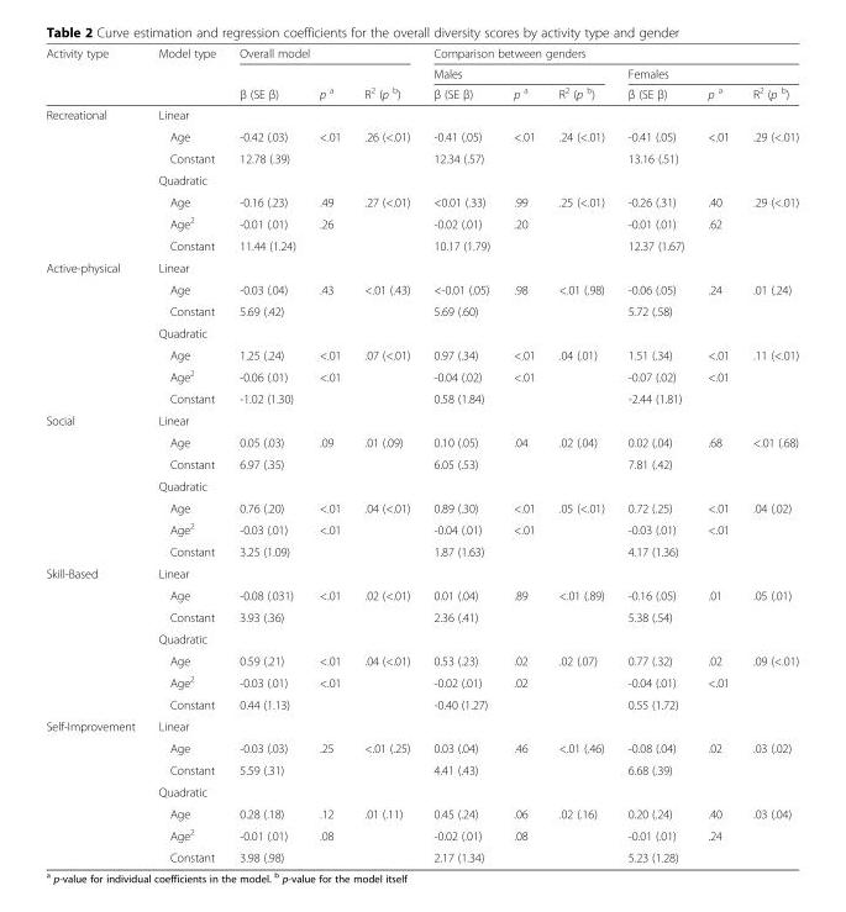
<table><thead><tr><td rowspan="3">Activity type</td><td rowspan="3">Model type</td><td colspan="3">Overall model</td><td colspan="6">Comparison between genders</td></tr><tr><td rowspan="2">β (SE β)</td><td rowspan="2">p <sup>a</sup></td><td rowspan="2">R<sup>2</sup> (p <sup>b</sup>)</td><td colspan="3">Males</td><td colspan="3">Females</td></tr><tr><td>β (SE β)</td><td>p <sup>a</sup></td><td>R<sup>2</sup> (p <sup>b</sup>)</td><td>β (SE β)</td><td>p <sup>a</sup></td><td>R<sup>2</sup> (p <sup>b</sup>)</td></tr></thead><tbody><tr><td rowspan="7">Recreational</td><td>Linear</td><td></td><td></td><td></td><td></td><td></td><td></td><td></td><td></td><td></td></tr><tr><td>Age</td><td>-0.42 (.03)</td><td>&lt;.01</td><td>.26 (&lt;.01)</td><td>-0.41 (.05)</td><td>&lt;.01</td><td>.24 (&lt;.01)</td><td>-0.41 (.05)</td><td>&lt;.01</td><td>.29 (&lt;.01)</td></tr><tr><td>Constant</td><td>12.78 (.39)</td><td></td><td></td><td>12.34 (.57)</td><td></td><td></td><td>13.16 (.51)</td><td></td><td></td></tr><tr><td>Quadratic</td><td></td><td></td><td></td><td></td><td></td><td></td><td></td><td></td><td></td></tr><tr><td>Age</td><td>-0.16 (.23)</td><td>.49</td><td>.27 (&lt;.01)</td><td>&lt;0.01 (.33)</td><td>.99</td><td>.25 (&lt;.01)</td><td>-0.26 (.31)</td><td>.40</td><td>.29 (&lt;.01)</td></tr><tr><td>Age<sup>2</sup></td><td>-0.01 (.01)</td><td>.26</td><td></td><td>-0.02 (.01)</td><td>.20</td><td></td><td>-0.01 (.01)</td><td>.62</td><td></td></tr><tr><td>Constant</td><td>11.44 (1.24)</td><td></td><td></td><td>10.17 (1.79)</td><td></td><td></td><td>12.37 (1.67)</td><td></td><td></td></tr><tr><td rowspan="7">Active-physical</td><td>Linear</td><td></td><td></td><td></td><td></td><td></td><td></td><td></td><td></td><td></td></tr><tr><td>Age</td><td>-0.03 (.04)</td><td>.43</td><td>&lt;.01 (.43)</td><td>&lt;-0.01 (.05)</td><td>.98</td><td>&lt;.01 (.98)</td><td>-0.06 (.05)</td><td>.24</td><td>.01 (.24)</td></tr><tr><td>Constant</td><td>5.69 (.42)</td><td></td><td></td><td>5.69 (.60)</td><td></td><td></td><td>5.72 (.58)</td><td></td><td></td></tr><tr><td>Quadratic</td><td></td><td></td><td></td><td></td><td></td><td></td><td></td><td></td><td></td></tr><tr><td>Age</td><td>1.25 (.24)</td><td>&lt;.01</td><td>.07 (&lt;.01)</td><td>0.97 (.34)</td><td>&lt;.01</td><td>.04 (.01)</td><td>1.51 (.34)</td><td>&lt;.01</td><td>.11 (&lt;.01)</td></tr><tr><td>Age<sup>2</sup></td><td>-0.06 (.01)</td><td>&lt;.01</td><td></td><td>-0.04 (.02)</td><td>&lt;.01</td><td></td><td>-0.07 (.02)</td><td>&lt;.01</td><td></td></tr><tr><td>Constant</td><td>-1.02 (1.30)</td><td></td><td></td><td>0.58 (1.84)</td><td></td><td></td><td>-2.44 (1.81)</td><td></td><td></td></tr><tr><td rowspan="7">Social</td><td>Linear</td><td></td><td></td><td></td><td></td><td></td><td></td><td></td><td></td><td></td></tr><tr><td>Age</td><td>0.05 (.03)</td><td>.09</td><td>.01 (.09)</td><td>0.10 (.05)</td><td>.04</td><td>.02 (.04)</td><td>0.02 (.04)</td><td>.68</td><td>&lt;.01 (.68)</td></tr><tr><td>Constant</td><td>6.97 (.35)</td><td></td><td></td><td>6.05 (.53)</td><td></td><td></td><td>7.81 (.42)</td><td></td><td></td></tr><tr><td>Quadratic</td><td></td><td></td><td></td><td></td><td></td><td></td><td></td><td></td><td></td></tr><tr><td>Age</td><td>0.76 (.20)</td><td>&lt;.01</td><td>.04 (&lt;.01)</td><td>0.89 (.30)</td><td>&lt;.01</td><td>.05 (&lt;.01)</td><td>0.72 (.25)</td><td>&lt;.01</td><td>.04 (.02)</td></tr><tr><td>Age<sup>2</sup></td><td>-0.03 (.01)</td><td>&lt;.01</td><td></td><td>-0.04 (.01)</td><td>&lt;.01</td><td></td><td>-0.03 (.01)</td><td>&lt;.01</td><td></td></tr><tr><td>Constant</td><td>3.25 (1.09)</td><td></td><td></td><td>1.87 (1.63)</td><td></td><td></td><td>4.17 (1.36)</td><td></td><td></td></tr><tr><td rowspan="7">Skill-Based</td><td>Linear</td><td></td><td></td><td></td><td></td><td></td><td></td><td></td><td></td><td></td></tr><tr><td>Age</td><td>-0.08 (.031)</td><td>&lt;.01</td><td>.02 (&lt;.01)</td><td>0.01 (.04)</td><td>.89</td><td>&lt;.01 (.89)</td><td>-0.16 (.05)</td><td>.01</td><td>.05 (.01)</td></tr><tr><td>Constant</td><td>3.93 (.36)</td><td></td><td></td><td>2.36 (.41)</td><td></td><td></td><td>5.38 (.54)</td><td></td><td></td></tr><tr><td>Quadratic</td><td></td><td></td><td></td><td></td><td></td><td></td><td></td><td></td><td></td></tr><tr><td>Age</td><td>0.59 (.21)</td><td>&lt;.01</td><td>.04 (&lt;.01)</td><td>0.53 (.23)</td><td>.02</td><td>.02 (.07)</td><td>0.77 (.32)</td><td>.02</td><td>.09 (&lt;.01)</td></tr><tr><td>Age<sup>2</sup></td><td>-0.03 (.01)</td><td>&lt;.01</td><td></td><td>-0.02 (.01)</td><td>.02</td><td></td><td>-0.04 (.01)</td><td>&lt;.01</td><td></td></tr><tr><td>Constant</td><td>0.44 (1.13)</td><td></td><td></td><td>-0.40 (1.27)</td><td></td><td></td><td>0.55 (1.72)</td><td></td><td></td></tr><tr><td rowspan="7">Self-Improvement</td><td>Linear</td><td></td><td></td><td></td><td></td><td></td><td></td><td></td><td></td><td></td></tr><tr><td>Age</td><td>-0.03 (.03)</td><td>.25</td><td>&lt;.01 (.25)</td><td>0.03 (.04)</td><td>.46</td><td>&lt;.01 (.46)</td><td>-0.08 (.04)</td><td>.02</td><td>.03 (.02)</td></tr><tr><td>Constant</td><td>5.59 (.31)</td><td></td><td></td><td>4.41 (.43)</td><td></td><td></td><td>6.68 (.39)</td><td></td><td></td></tr><tr><td>Quadratic</td><td></td><td></td><td></td><td></td><td></td><td></td><td></td><td></td><td></td></tr><tr><td>Age</td><td>0.28 (.18)</td><td>.12</td><td>.01 (.11)</td><td>0.45 (.24)</td><td>.06</td><td>.02 (.16)</td><td>0.20 (.24)</td><td>.40</td><td>.03 (.04)</td></tr><tr><td>Age<sup>2</sup></td><td>-0.01 (.01)</td><td>.08</td><td></td><td>-0.02 (.01)</td><td>.08</td><td></td><td>-0.01 (.01)</td><td>.24</td><td></td></tr><tr><td>Constant</td><td>3.98 (.98)</td><td></td><td></td><td>2.17 (1.34)</td><td></td><td></td><td>5.23 (1.28)</td><td></td><td></td></tr></tbody></table>